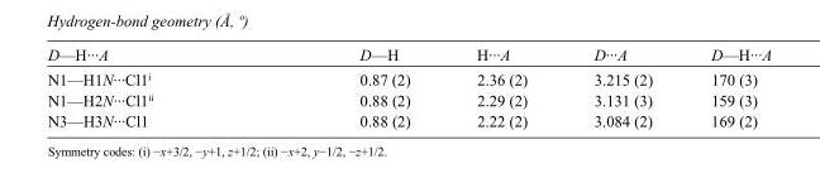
<table><tbody><tr><td>D—H···A</td><td>D—H</td><td>H···A</td><td>D···A</td><td>D—H···A</td></tr><tr><td>N1—H1N···Cl1<sup>i</sup></td><td>0.87 (2)</td><td>2.36 (2)</td><td>3.215 (2)</td><td>170 (3)</td></tr><tr><td>N1—H2N···Cl1<sup>ii</sup></td><td>0.88 (2)</td><td>2.29 (2)</td><td>3.131 (3)</td><td>159 (3)</td></tr><tr><td>N3—H3N···Cl1</td><td>0.88 (2)</td><td>2.22 (2)</td><td>3.084 (2)</td><td>169 (2)</td></tr></tbody></table>